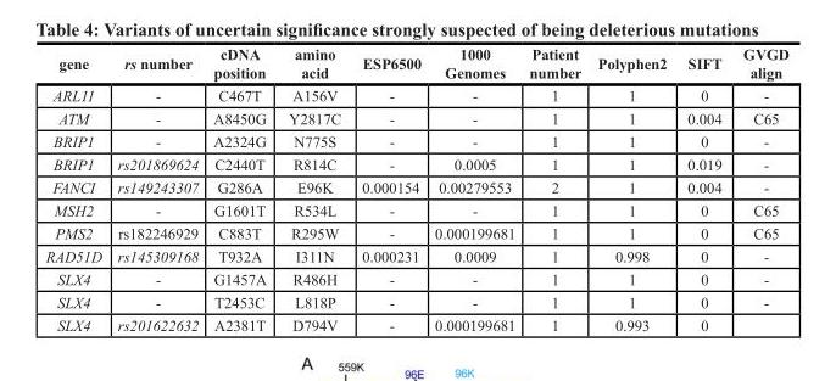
<table><thead><tr><td>gene</td><td>rs number</td><td>cDNA position</td><td>amino acid</td><td>ESP6500</td><td>1000 Genomes</td><td>Patient number</td><td>Polyphen2</td><td>SIFT</td><td>GVGD align</td></tr></thead><tbody><tr><td>ARL11</td><td>-</td><td>C467T</td><td>A156V</td><td>-</td><td>-</td><td>1</td><td>1</td><td>0</td><td>-</td></tr><tr><td>ATM</td><td>-</td><td>A8450G</td><td>Y2817C</td><td>-</td><td>-</td><td>1</td><td>1</td><td>0.004</td><td>C65</td></tr><tr><td>BRIP1</td><td>-</td><td>A2324G</td><td>N775S</td><td>-</td><td>-</td><td>1</td><td>1</td><td>0</td><td>-</td></tr><tr><td>BRIP1</td><td>rs201869624</td><td>C2440T</td><td>R814C</td><td>-</td><td>0.0005</td><td>1</td><td>1</td><td>0.019</td><td>-</td></tr><tr><td>FANCI</td><td>rs149243307</td><td>G286A</td><td>E96K</td><td>0.000154</td><td>0.00279553</td><td>2</td><td>1</td><td>0.004</td><td>-</td></tr><tr><td>MSH2</td><td>-</td><td>G1601T</td><td>R534L</td><td>-</td><td>-</td><td>1</td><td>1</td><td>0</td><td>C65</td></tr><tr><td>PMS2</td><td>rs182246929</td><td>C883T</td><td>R295W</td><td>-</td><td>0.000199681</td><td>1</td><td>1</td><td>0</td><td>C65</td></tr><tr><td>RAD51D</td><td>rs145309168</td><td>T932A</td><td>I311N</td><td>0.000231</td><td>0.0009</td><td>1</td><td>0.998</td><td>0</td><td>-</td></tr><tr><td>SLX4</td><td>-</td><td>G1457A</td><td>R486H</td><td>-</td><td>-</td><td>1</td><td>1</td><td>0</td><td>-</td></tr><tr><td>SLX4</td><td>-</td><td>T2453C</td><td>L818P</td><td>-</td><td>-</td><td>1</td><td>1</td><td>0</td><td>-</td></tr><tr><td>SLX4</td><td>rs201622632</td><td>A2381T</td><td>D794V</td><td>-</td><td>0.000199681</td><td>1</td><td>0.993</td><td>0</td><td></td></tr></tbody></table>